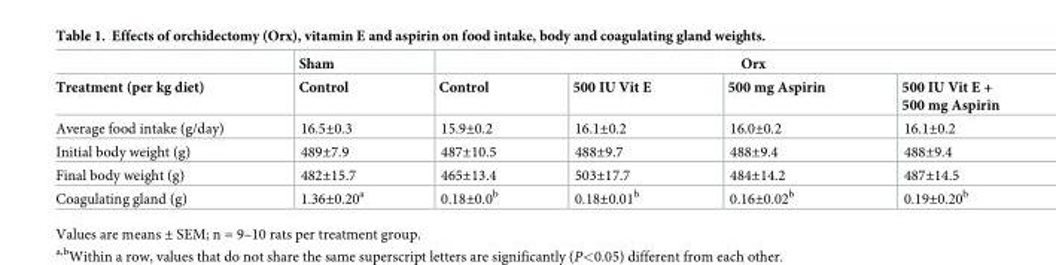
<table><thead><tr><td rowspan="2">Treatment (per kg diet)</td><td rowspan="2">Sham Control</td><td colspan="4">Orx</td></tr><tr><td>Control</td><td>500 IU Vit E</td><td>500 mg Aspirin</td><td>500 IU Vit E + 500 mg Aspirin</td></tr></thead><tbody><tr><td>Average food intake (g/day)</td><td>16.5±0.3</td><td>15.9±0.2</td><td>16.1±0.2</td><td>16.0±0.2</td><td>16.1±0.2</td></tr><tr><td>Initial body weight (g)</td><td>489±7.9</td><td>487±10.5</td><td>488±9.7</td><td>488±9.4</td><td>488±9.4</td></tr><tr><td>Final body weight (g)</td><td>482±15.7</td><td>465±13.4</td><td>503±17.7</td><td>484±14.2</td><td>487±14.5</td></tr><tr><td>Coagulating gland (g)</td><td>1.36±0.20<sup>a</sup></td><td>0.18±0.0<sup>b</sup></td><td>0.18±0.01<sup>b</sup></td><td>0.16±0.02<sup>b</sup></td><td>0.19±0.20<sup>b</sup></td></tr></tbody></table>